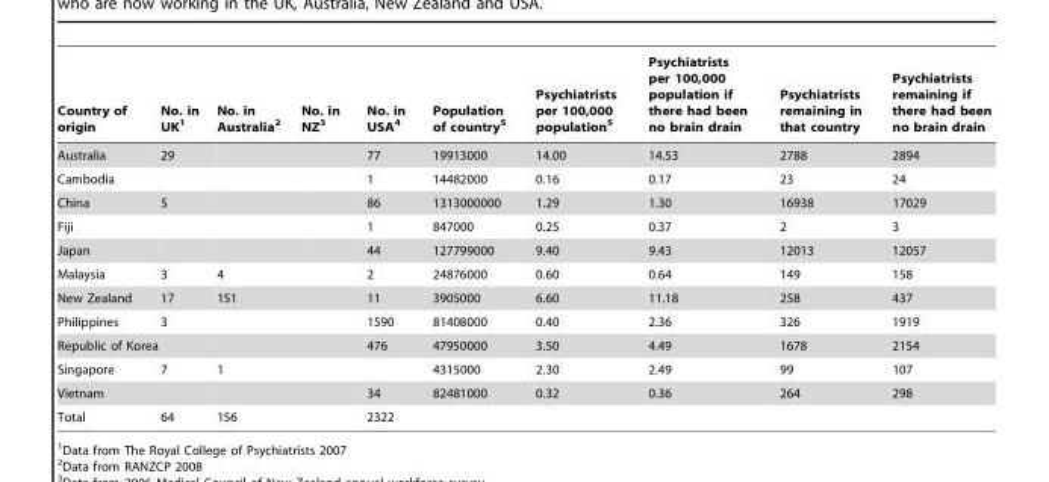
<table><thead><tr><td>Country of origin</td><td>No. in UK<sup>1</sup></td><td>No. in Australia<sup>2</sup></td><td>No. in NZ<sup>3</sup></td><td>No. in USA<sup>4</sup></td><td>Population of country<sup>5</sup></td><td>Psychiatrists per 100,000 population<sup>5</sup></td><td>Psychiatrists per 100,000 population if there had been no brain drain</td><td>Psychiatrists remaining in that country</td><td>Psychiatrists remaining if there had been no brain drain</td></tr></thead><tbody><tr><td>Australia</td><td>29</td><td></td><td></td><td>77</td><td>19913000</td><td>14.00</td><td>14.53</td><td>2788</td><td>2894</td></tr><tr><td>Cambodia</td><td></td><td></td><td></td><td>1</td><td>14482000</td><td>0.16</td><td>0.17</td><td>23</td><td>24</td></tr><tr><td>China</td><td>5</td><td></td><td></td><td>86</td><td>1313000000</td><td>1.29</td><td>1.30</td><td>16938</td><td>17029</td></tr><tr><td>Fiji</td><td></td><td></td><td></td><td>1</td><td>847000</td><td>0.25</td><td>0.37</td><td>2</td><td>3</td></tr><tr><td>Japan</td><td></td><td></td><td></td><td>44</td><td>127799000</td><td>9.40</td><td>9.43</td><td>12013</td><td>12057</td></tr><tr><td>Malaysia</td><td>3</td><td>4</td><td></td><td>2</td><td>24876000</td><td>0.60</td><td>0.64</td><td>149</td><td>158</td></tr><tr><td>New Zealand</td><td>17</td><td>151</td><td></td><td>11</td><td>3905000</td><td>6.60</td><td>11.18</td><td>258</td><td>437</td></tr><tr><td>Philippines</td><td>3</td><td></td><td></td><td>1590</td><td>81408000</td><td>0.40</td><td>2.36</td><td>326</td><td>1919</td></tr><tr><td>Republic of Korea</td><td></td><td></td><td></td><td>476</td><td>47950000</td><td>3.50</td><td>4.49</td><td>1678</td><td>2154</td></tr><tr><td>Singapore</td><td>7</td><td>1</td><td></td><td></td><td>4315000</td><td>2.30</td><td>2.49</td><td>99</td><td>107</td></tr><tr><td>Vietnam</td><td></td><td></td><td></td><td>34</td><td>82481000</td><td>0.32</td><td>0.36</td><td>264</td><td>298</td></tr><tr><td>Total</td><td>64</td><td>156</td><td></td><td>2322</td><td></td><td></td><td></td><td></td><td></td></tr></tbody></table>